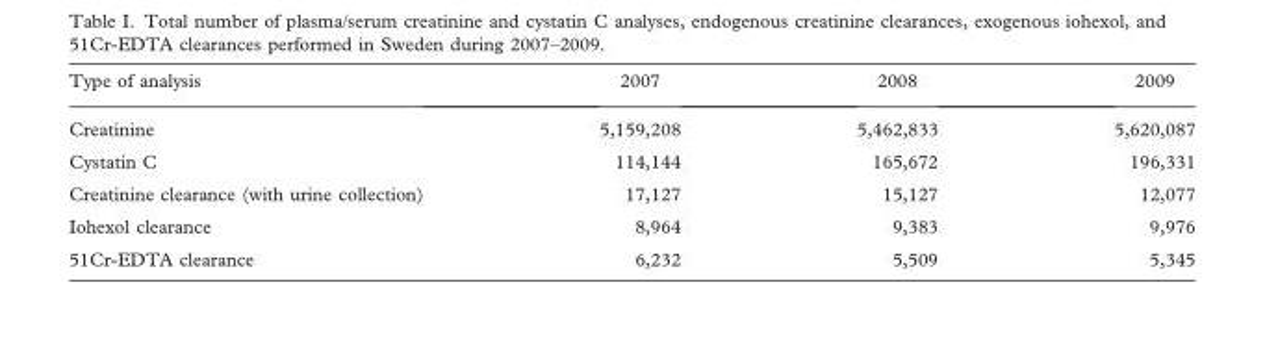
<table><thead><tr><td>Type of analysis</td><td>2007</td><td>2008</td><td>2009</td></tr></thead><tbody><tr><td>Creatinine</td><td>5,159,208</td><td>5,462,833</td><td>5,620,087</td></tr><tr><td>Cystatin C</td><td>114,144</td><td>165,672</td><td>196,331</td></tr><tr><td>Creatinine clearance (with urine collection)</td><td>17,127</td><td>15,127</td><td>12,077</td></tr><tr><td>Iohexol clearance</td><td>8,964</td><td>9,383</td><td>9,976</td></tr><tr><td>51Cr-EDTA clearance</td><td>6,232</td><td>5,509</td><td>5,345</td></tr></tbody></table>